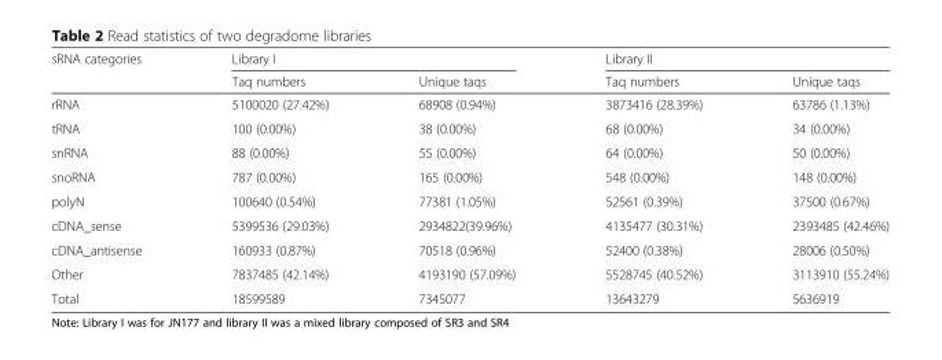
<table><thead><tr><td rowspan="2">sRNA categories</td><td colspan="2">Library I</td><td colspan="2">Library II</td></tr><tr><td>Taq numbers</td><td>Unique taqs</td><td>Taq numbers</td><td>Unique taqs</td></tr></thead><tbody><tr><td>rRNA</td><td>5100020 (27.42%)</td><td>68908 (0.94%)</td><td>3873416 (28.39%)</td><td>63786 (1.13%)</td></tr><tr><td>tRNA</td><td>100 (0.00%)</td><td>38 (0.00%)</td><td>68 (0.00%)</td><td>34 (0.00%)</td></tr><tr><td>snRNA</td><td>88 (0.00%)</td><td>55 (0.00%)</td><td>64 (0.00%)</td><td>50 (0.00%)</td></tr><tr><td>snoRNA</td><td>787 (0.00%)</td><td>165 (0.00%)</td><td>548 (0.00%)</td><td>148 (0.00%)</td></tr><tr><td>polyN</td><td>100640 (0.54%)</td><td>77381 (1.05%)</td><td>52561 (0.39%)</td><td>37500 (0.67%)</td></tr><tr><td>cDNA_sense</td><td>5399536 (29.03%)</td><td>2934822(39.96%)</td><td>4135477 (30.31%)</td><td>2393485 (42.46%)</td></tr><tr><td>cDNA_antisense</td><td>160933 (0.87%)</td><td>70518 (0.96%)</td><td>52400 (0.38%)</td><td>28006 (0.50%)</td></tr><tr><td>Other</td><td>7837485 (42.14%)</td><td>4193190 (57.09%)</td><td>5528745 (40.52%)</td><td>3113910 (55.24%)</td></tr><tr><td>Total</td><td>18599589</td><td>7345077</td><td>13643279</td><td>5636919</td></tr></tbody></table>